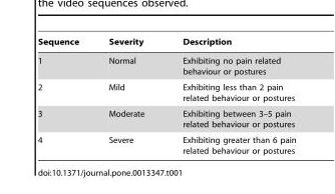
<table><thead><tr><td>Sequence</td><td>Severity</td><td>Description</td></tr></thead><tbody><tr><td>1</td><td>Normal</td><td>Exhibiting no pain related behaviour or postures</td></tr><tr><td>2</td><td>Mild</td><td>Exhibiting less than 2 pain related behaviour or postures</td></tr><tr><td>3</td><td>Moderate</td><td>Exhibiting between 3–5 pain related behaviour or postures</td></tr><tr><td>4</td><td>Severe</td><td>Exhibiting greater than 6 pain related behaviour or postures</td></tr></tbody></table>